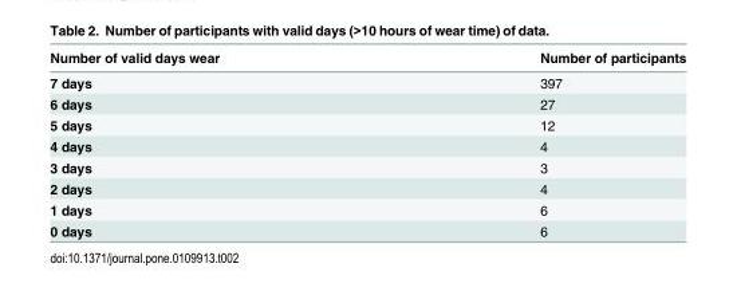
<table><thead><tr><td>Number of valid days wear</td><td>Number of participants</td></tr></thead><tbody><tr><td>7 days</td><td>397</td></tr><tr><td>6 days</td><td>27</td></tr><tr><td>5 days</td><td>12</td></tr><tr><td>4 days</td><td>4</td></tr><tr><td>3 days</td><td>3</td></tr><tr><td>2 days</td><td>4</td></tr><tr><td>1 days</td><td>6</td></tr><tr><td>0 days</td><td>6</td></tr></tbody></table>